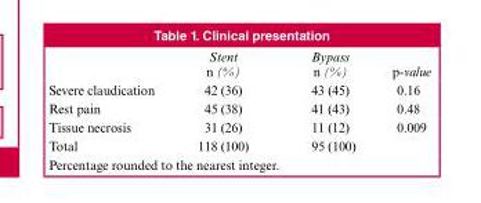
<table><thead><tr><td></td><td>Stent n (%)</td><td>Bypass n (%)</td><td>p-value</td></tr></thead><tbody><tr><td>Severe claudication</td><td>42 (36)</td><td>43 (45)</td><td>0.16</td></tr><tr><td>Rest pain</td><td>45 (38)</td><td>41 (43)</td><td>0.48</td></tr><tr><td>Tissue necrosis</td><td>31 (26)</td><td>11 (12)</td><td>0.009</td></tr><tr><td>Total</td><td>118 (100)</td><td>95 (100)</td><td></td></tr></tbody></table>